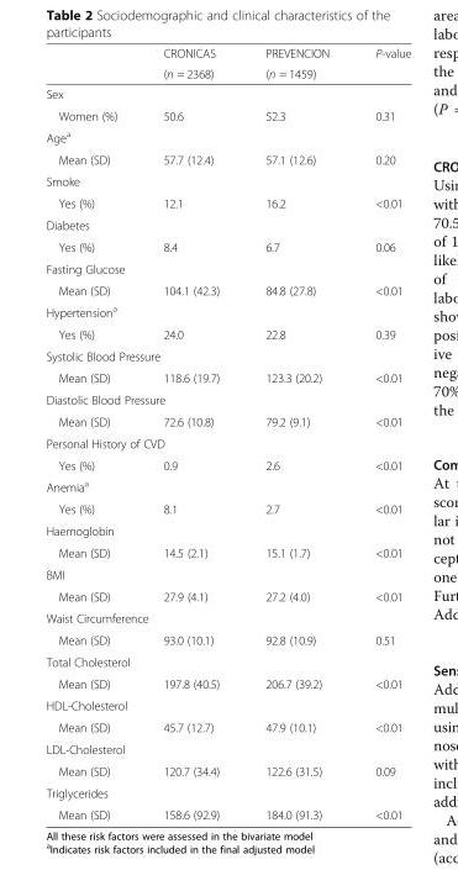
<table><thead><tr><td rowspan="2"></td><td rowspan="2">CRONICAS (n = 2368)</td><td rowspan="2">PREVENCION (n = 1459)</td><td rowspan="2">P-value</td></tr><tr></tr></thead><tbody><tr><td colspan="4">Sex</td></tr><tr><td>Women (%)</td><td>50.6</td><td>52.3</td><td>0.31</td></tr><tr><td colspan="4">Age<sup>a</sup></td></tr><tr><td>Mean (SD)</td><td>57.7 (12.4)</td><td>57.1 (12.6)</td><td>0.20</td></tr><tr><td colspan="4">Smoke</td></tr><tr><td>Yes (%)</td><td>12.1</td><td>16.2</td><td>&lt;0.01</td></tr><tr><td colspan="4">Diabetes</td></tr><tr><td>Yes (%)</td><td>8.4</td><td>6.7</td><td>0.06</td></tr><tr><td colspan="4">Fasting Glucose</td></tr><tr><td>Mean (SD)</td><td>104.1 (42.3)</td><td>84.8 (27.8)</td><td>&lt;0.01</td></tr><tr><td colspan="4">Hypertension<sup>a</sup></td></tr><tr><td>Yes (%)</td><td>24.0</td><td>22.8</td><td>0.39</td></tr><tr><td colspan="4">Systolic Blood Pressure</td></tr><tr><td>Mean (SD)</td><td>118.6 (19.7)</td><td>123.3 (20.2)</td><td>&lt;0.01</td></tr><tr><td colspan="4">Diastolic Blood Pressure</td></tr><tr><td>Mean (SD)</td><td>72.6 (10.8)</td><td>79.2 (9.1)</td><td>&lt;0.01</td></tr><tr><td colspan="4">Personal History of CVD</td></tr><tr><td>Yes (%)</td><td>0.9</td><td>2.6</td><td>&lt;0.01</td></tr><tr><td colspan="4">Anemia<sup>a</sup></td></tr><tr><td>Yes (%)</td><td>8.1</td><td>2.7</td><td>&lt;0.01</td></tr><tr><td colspan="4">Haemoglobin</td></tr><tr><td>Mean (SD)</td><td>14.5 (2.1)</td><td>15.1 (1.7)</td><td>&lt;0.01</td></tr><tr><td colspan="4">BMI</td></tr><tr><td>Mean (SD)</td><td>27.9 (4.1)</td><td>27.2 (4.0)</td><td>&lt;0.01</td></tr><tr><td colspan="4">Waist Circumference</td></tr><tr><td>Mean (SD)</td><td>93.0 (10.1)</td><td>92.8 (10.9)</td><td>0.51</td></tr><tr><td colspan="4">Total Cholesterol</td></tr><tr><td>Mean (SD)</td><td>197.8 (40.5)</td><td>206.7 (39.2)</td><td>&lt;0.01</td></tr><tr><td colspan="4">HDL-Cholesterol</td></tr><tr><td>Mean (SD)</td><td>45.7 (12.7)</td><td>47.9 (10.1)</td><td>&lt;0.01</td></tr><tr><td colspan="4">LDL-Cholesterol</td></tr><tr><td>Mean (SD)</td><td>120.7 (34.4)</td><td>122.6 (31.5)</td><td>0.09</td></tr><tr><td colspan="4">Triglycerides</td></tr><tr><td>Mean (SD)</td><td>158.6 (92.9)</td><td>184.0 (91.3)</td><td>&lt;0.01</td></tr></tbody></table>